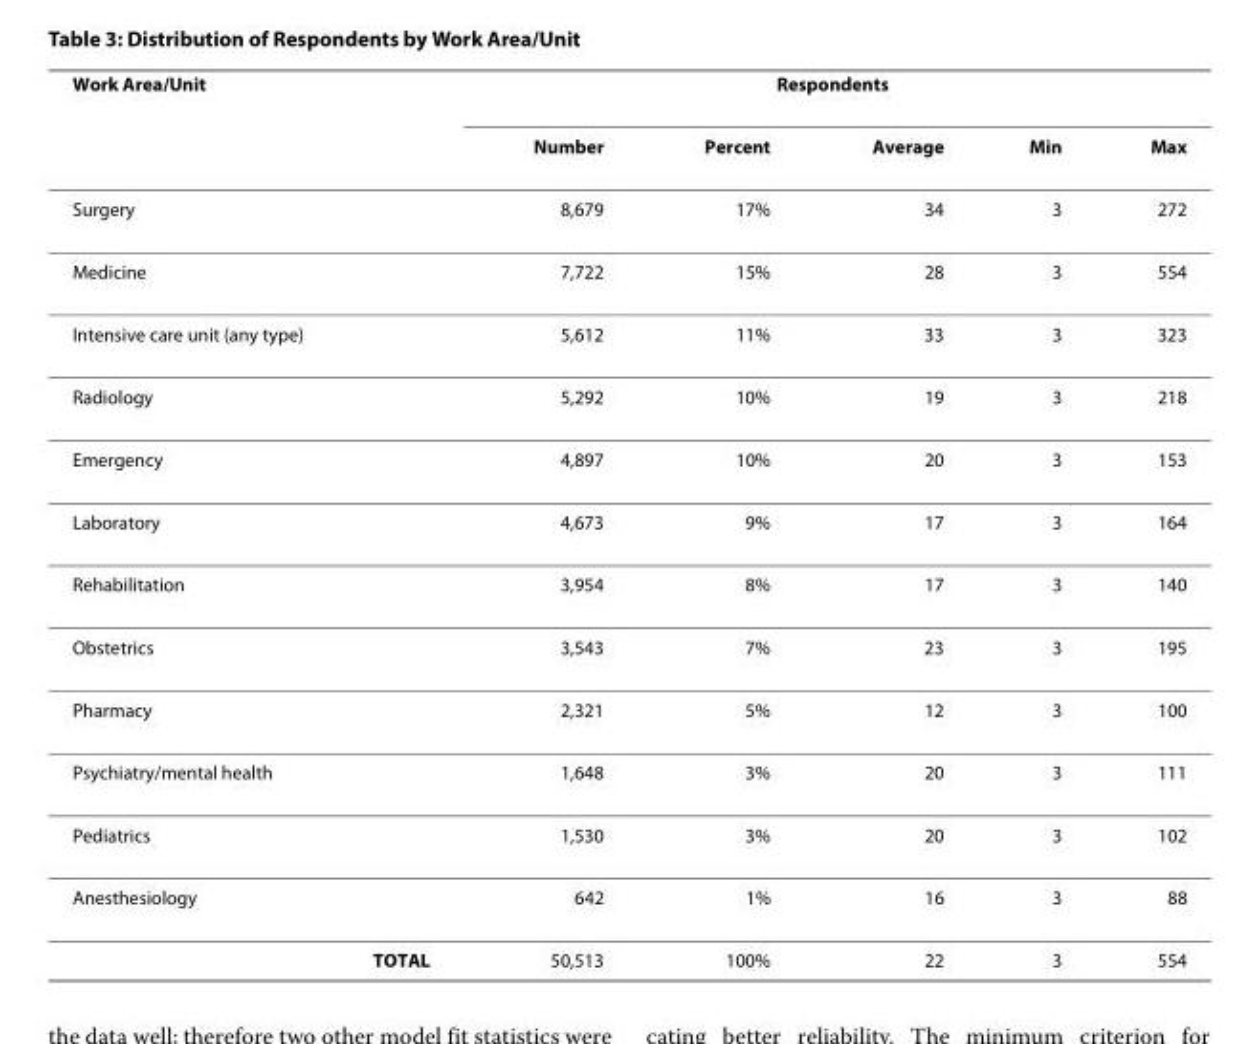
<table><thead><tr><td rowspan="2">Work Area/Unit</td><td colspan="5">Respondents</td></tr><tr><td>Number</td><td>Percent</td><td>Average</td><td>Min</td><td>Max</td></tr></thead><tbody><tr><td>Surgery</td><td>8,679</td><td>17%</td><td>34</td><td>3</td><td>272</td></tr><tr><td>Medicine</td><td>7,722</td><td>15%</td><td>28</td><td>3</td><td>554</td></tr><tr><td>Intensive care unit (any type)</td><td>5,612</td><td>11%</td><td>33</td><td>3</td><td>323</td></tr><tr><td>Radiology</td><td>5,292</td><td>10%</td><td>19</td><td>3</td><td>218</td></tr><tr><td>Emergency</td><td>4,897</td><td>10%</td><td>20</td><td>3</td><td>153</td></tr><tr><td>Laboratory</td><td>4,673</td><td>9%</td><td>17</td><td>3</td><td>164</td></tr><tr><td>Rehabilitation</td><td>3,954</td><td>8%</td><td>17</td><td>3</td><td>140</td></tr><tr><td>Obstetrics</td><td>3,543</td><td>7%</td><td>23</td><td>3</td><td>195</td></tr><tr><td>Pharmacy</td><td>2,321</td><td>5%</td><td>12</td><td>3</td><td>100</td></tr><tr><td>Psychiatry/mental health</td><td>1,648</td><td>3%</td><td>20</td><td>3</td><td>111</td></tr><tr><td>Pediatrics</td><td>1,530</td><td>3%</td><td>20</td><td>3</td><td>102</td></tr><tr><td>Anesthesiology</td><td>642</td><td>1%</td><td>16</td><td>3</td><td>88</td></tr><tr><td>TOTAL</td><td>50,513</td><td>100%</td><td>22</td><td>3</td><td>554</td></tr></tbody></table>